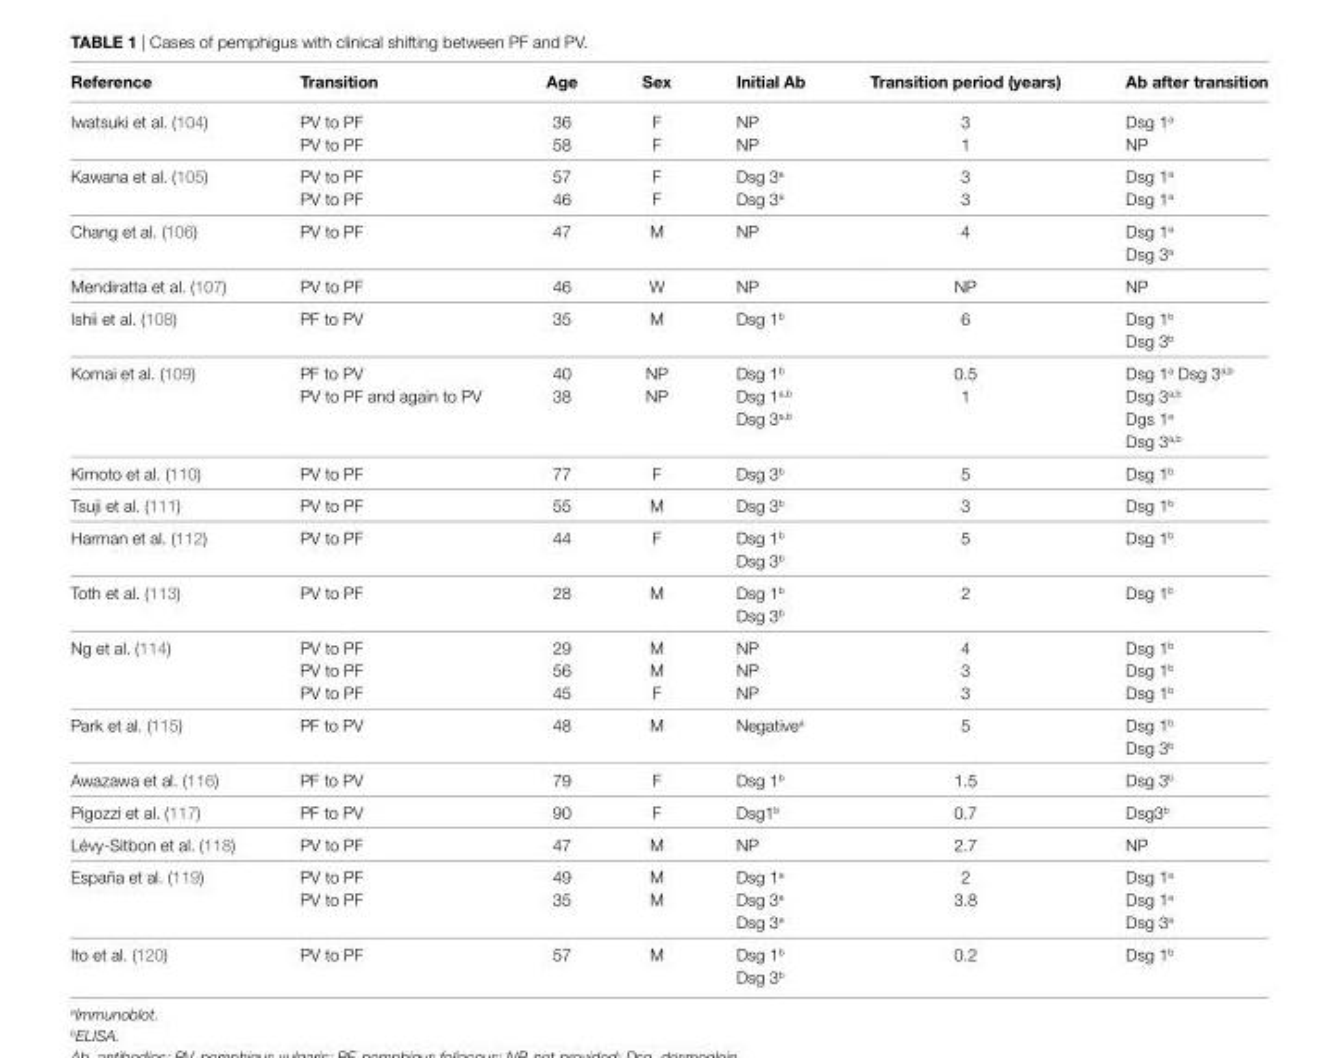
<table><thead><tr><td>Reference</td><td>Transition</td><td>Age</td><td>Sex</td><td>initial Ab</td><td>Transition period (years)</td><td>Ab after transition</td></tr></thead><tbody><tr><td>Iwatsuki et al. (104)</td><td>PV to PF PV to PF</td><td>36 58</td><td>F F</td><td>NP NP</td><td>3 1</td><td>Dsg 1<sup>a</sup> NP</td></tr><tr><td>Kawana et al. (105)</td><td>PV to PF PV to PF</td><td>57 46</td><td>F F</td><td>Dsg 3<sup>a</sup> Dsg 3<sup>a</sup></td><td>3 3</td><td>Dsg 1<sup>a</sup> Dsg 1<sup>a</sup></td></tr><tr><td>Chang et al. (106)</td><td>PV to PF</td><td>47</td><td>M</td><td>NP</td><td>4</td><td>Dsg 1<sup>a</sup> Dsg 3<sup>a</sup></td></tr><tr><td>Mendiratta et al. (107)</td><td>PV to PF</td><td>46</td><td>W</td><td>NP</td><td>NP</td><td>NP</td></tr><tr><td>Ishii et al. (108)</td><td>PF to PV</td><td>35</td><td>M</td><td>Dsg 1<sup>b</sup></td><td>6</td><td>Dsg 1<sup>b</sup> Dsg 3<sup>b</sup></td></tr><tr><td>Komai et al. (109)</td><td>PF to PV PV to PF and again to PV</td><td>40 38</td><td>NP NP</td><td>Dsg 1<sup>b</sup> Dsg 1<sup>a,b</sup> Dsg 3<sup>a,b</sup></td><td>0.5 1</td><td>Dsg 1<sup>a</sup> Dsg 3<sup>a,b</sup> Dsg 3<sup>a,b</sup> Dgs 1<sup>a</sup> Dsg 3<sup>a,b</sup></td></tr><tr><td>Kimoto et al. (110)</td><td>PV to PF</td><td>77</td><td>F</td><td>Dsg 3<sup>b</sup></td><td>5</td><td>Dsg 1<sup>b</sup></td></tr><tr><td>Tsuji et al. (111)</td><td>PV to PF</td><td>55</td><td>M</td><td>Dsg 3<sup>b</sup></td><td>3</td><td>Dsg 1<sup>b</sup></td></tr><tr><td>Harman et al. (112)</td><td>PV to PF</td><td>44</td><td>F</td><td>Dsg 1<sup>b</sup> Dsg 3<sup>b</sup></td><td>5</td><td>Dsg 1<sup>b</sup></td></tr><tr><td>Toth et al. (113)</td><td>PV to PF</td><td>28</td><td>M</td><td>Dsg 1<sup>b</sup> Dsg 3<sup>b</sup></td><td>2</td><td>Dsg 1<sup>b</sup></td></tr><tr><td>Ng et al. (114)</td><td>PV to PF PV to PF PV to PF</td><td>29 56 45</td><td>M M F</td><td>NP NP NP</td><td>4 3 3</td><td>Dsg 1<sup>b</sup> Dsg 1<sup>b</sup> Dsg 1<sup>b</sup></td></tr><tr><td>Park et al. (115)</td><td>PF to PV</td><td>48</td><td>M</td><td>Negative<sup>a</sup></td><td>5</td><td>Dsg 1<sup>b</sup> Dsg 3<sup>b</sup></td></tr><tr><td>Awazawa et al. (116)</td><td>PF to PV</td><td>79</td><td>F</td><td>Dsg 1<sup>b</sup></td><td>1.5</td><td>Dsg 3<sup>b</sup></td></tr><tr><td>Pigozzi et al. (117)</td><td>PF to PV</td><td>90</td><td>F</td><td>Dsg1<sup>b</sup></td><td>0.7</td><td>Dsg3<sup>b</sup></td></tr><tr><td>Lévy-Sitbon et al. (118)</td><td>PV to PF</td><td>47</td><td>M</td><td>NP</td><td>2.7</td><td>NP</td></tr><tr><td>España et al. (119)</td><td>PV to PF PV to PF</td><td>49 35</td><td>M M</td><td>Dsg 1<sup>a</sup> Dsg 3<sup>a</sup> Dsg 3<sup>a</sup></td><td>2 3.8</td><td>Dsg 1<sup>a</sup> Dsg 1<sup>a</sup> Dsg 3<sup>a</sup></td></tr><tr><td>Ito et al. (120)</td><td>PV to PF</td><td>57</td><td>M</td><td>Dsg 1<sup>b</sup> Dsg 3<sup>b</sup></td><td>0.2</td><td>Dsg 1<sup>b</sup></td></tr></tbody></table>